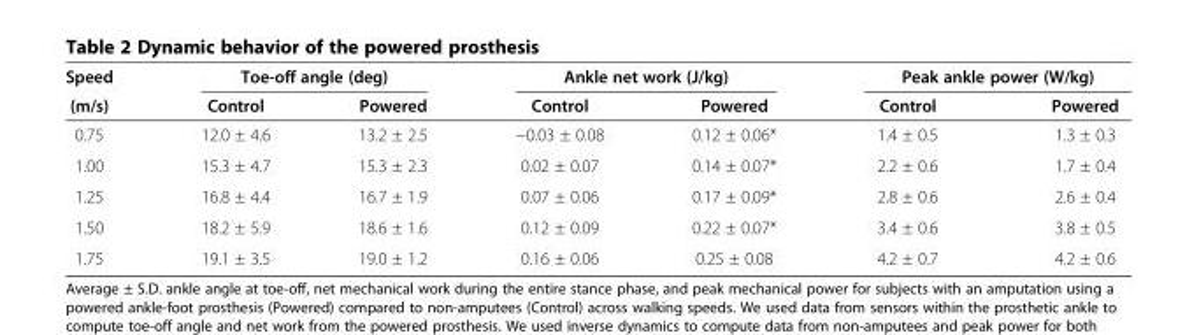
<table><thead><tr><td rowspan="2">Speed (m/s)</td><td colspan="2">Toe-off angle (deg)</td><td colspan="2">Ankle net work (J/kg)</td><td colspan="2">Peak ankle power (W/kg)</td></tr><tr><td>Control</td><td>Powered</td><td>Control</td><td>Powered</td><td>Control</td><td>Powered</td></tr></thead><tbody><tr><td>0.75</td><td>12.0 ± 4.6</td><td>13.2 ± 2.5</td><td>−0.03 ± 0.08</td><td>0.12 ± 0.06*</td><td>1.4 ± 0.5</td><td>1.3 ± 0.3</td></tr><tr><td>1.00</td><td>15.3 ± 4.7</td><td>15.3 ± 2.3</td><td>0.02 ± 0.07</td><td>0.14 ± 0.07*</td><td>2.2 ± 0.6</td><td>1.7 ± 0.4</td></tr><tr><td>1.25</td><td>16.8 ± 4.4</td><td>16.7 ± 1.9</td><td>0.07 ± 0.06</td><td>0.17 ± 0.09*</td><td>2.8 ± 0.6</td><td>2.6 ± 0.4</td></tr><tr><td>1.50</td><td>18.2 ± 5.9</td><td>18.6 ± 1.6</td><td>0.12 ± 0.09</td><td>0.22 ± 0.07*</td><td>3.4 ± 0.6</td><td>3.8 ± 0.5</td></tr><tr><td>1.75</td><td>19.1 ± 3.5</td><td>19.0 ± 1.2</td><td>0.16 ± 0.06</td><td>0.25 ± 0.08</td><td>4.2 ± 0.7</td><td>4.2 ± 0.6</td></tr></tbody></table>